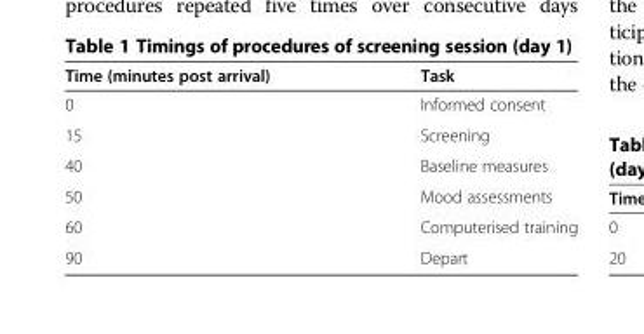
<table><thead><tr><td>Time (minutes post arrival)</td><td>Task</td></tr></thead><tbody><tr><td>0</td><td>Informed consent</td></tr><tr><td>15</td><td>Screening</td></tr><tr><td>40</td><td>Baseline measures</td></tr><tr><td>50</td><td>Mood assessments</td></tr><tr><td>60</td><td>Computerised training</td></tr><tr><td>90</td><td>Depart</td></tr></tbody></table>